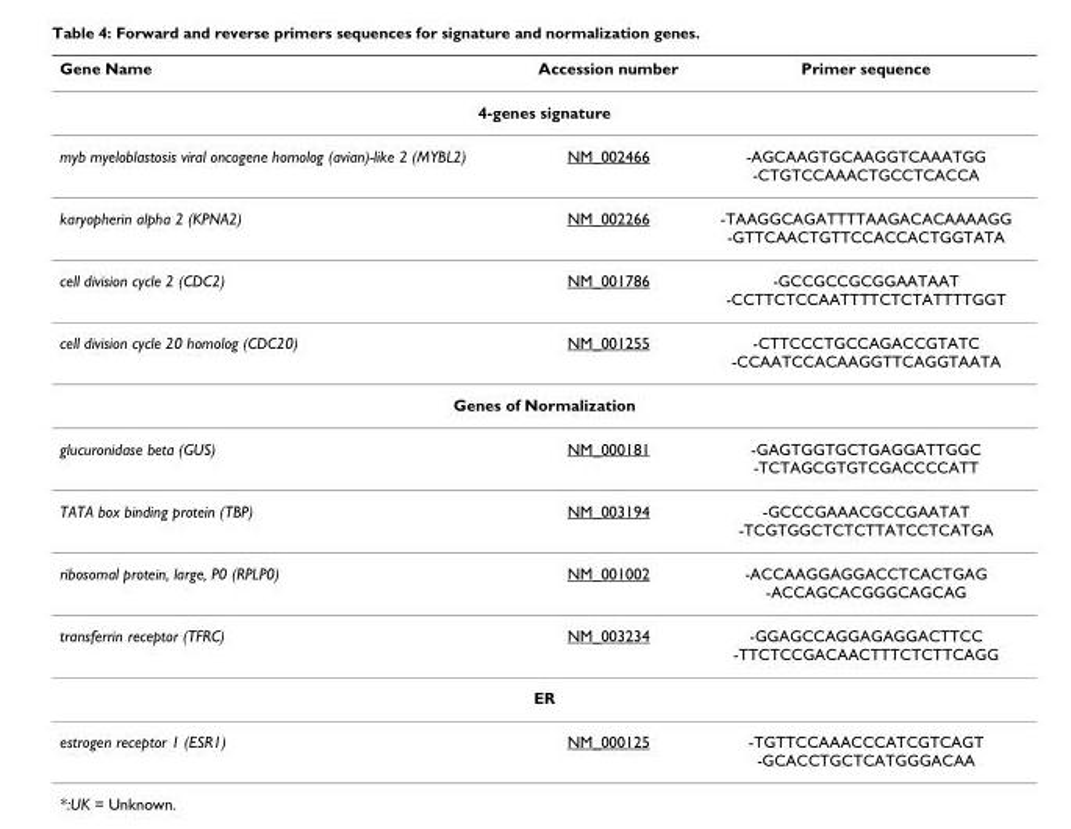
<table><thead><tr><td>Gene Name</td><td>Accession number</td><td>Primer sequence</td></tr></thead><tbody><tr><td colspan="3">4-genes signature</td></tr><tr><td>myb myeloblastosis viral oncogene homolog (avian)-like 2 (MYBL2)</td><td>NM_002466</td><td>-AGCAAGTGCAAGGTCAAATGG -CTGTCCAAACTGCCTCACCA</td></tr><tr><td>karyopherin alpha 2 (KPNA2)</td><td>NM_002266</td><td>-TAAGGCAGATTTTAAGACACAAAAGG -GTTCAACTGTTCCACCACTGGTATA</td></tr><tr><td>cell division cycle 2 (CDC2)</td><td>NM_001786</td><td>-GCCGCCGCGGAATAAT -CCTTCTCCAATTTTCTCTATTTTGGT</td></tr><tr><td>cell division cycle 20 homolog (CDC20)</td><td>NM_001255</td><td>-CTTCCCTGCCAGACCGTATC -CCAATCCACAAGGTTCAGGTAATA</td></tr><tr><td colspan="3">Genes of Normalization</td></tr><tr><td>glucuronidase beta (GUS)</td><td>NM_000181</td><td>-GAGTGGTGCTGAGGATTGGC -TCTAGCGTGTCGACCCCATT</td></tr><tr><td>TATA box binding protein (TBP)</td><td>NM_003194</td><td>-GCCCGAAACGCCGAATAT -TCGTGGCTCTCTTATCCTCATGA</td></tr><tr><td>ribosomal protein, large, P0 (RPLP0)</td><td>NM_001002</td><td>-ACCAAGGAGGACCTCACTGAG -ACCAGCACGGGCAGCAG</td></tr><tr><td>transferrin receptor (TFRC)</td><td>NM_003234</td><td>-GGAGCCAGGAGAGGACTTCC -TTCTCCGACAACTTTCTCTTCAGG</td></tr><tr><td colspan="3">ER</td></tr><tr><td>estrogen receptor 1 (ESR1)</td><td>NM_000125</td><td>-TGTTCCAAACCCATCGTCAGT -GCACCTGCTCATGGGACAA</td></tr></tbody></table>